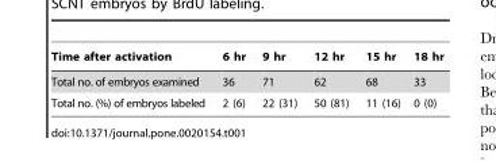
<table><thead><tr><td>Time after activation</td><td>6 hr</td><td>9 hr</td><td>12 hr</td><td>15 hr</td><td>18 hr</td></tr></thead><tbody><tr><td>Total no. of embryos examined</td><td>36</td><td>71</td><td>62</td><td>68</td><td>33</td></tr><tr><td>Total no. (%) of embryos labeled</td><td>2 (6)</td><td>22 (31)</td><td>50 (81)</td><td>11 (16)</td><td>0 (0)</td></tr></tbody></table>